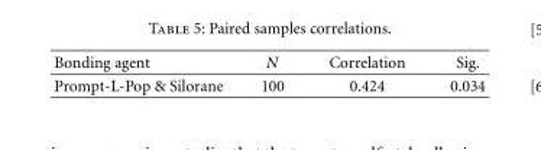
<table><thead><tr><td>Bonding agent</td><td>N</td><td>Correlation</td><td>Sig.</td></tr></thead><tbody><tr><td>Prompt-L-Pop &amp; Silorane</td><td>100</td><td>0.424</td><td>0.034</td></tr></tbody></table>